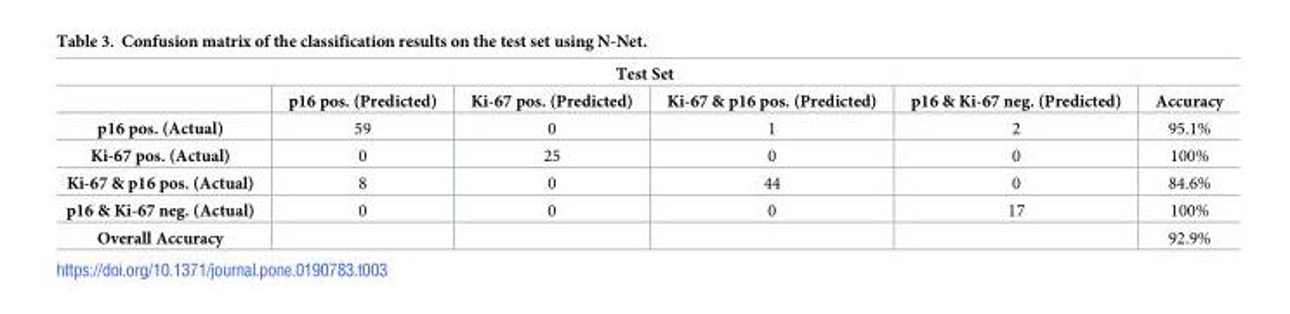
<table><thead><tr><td colspan="6">Test Set</td></tr><tr><td></td><td>p16 pos. (Predicted)</td><td>Ki-67 pos. (Predicted)</td><td>Ki-67 &amp; p16 pos. (Predicted)</td><td>p16 &amp; Ki-67 neg. (Predicted)</td><td>Accuracy</td></tr></thead><tbody><tr><td>p16 pos. (Actual)</td><td>59</td><td>0</td><td>1</td><td>2</td><td>95.1%</td></tr><tr><td>Ki-67 pos. (Actual)</td><td>0</td><td>25</td><td>0</td><td>0</td><td>100%</td></tr><tr><td>Ki-67 &amp; p16 pos. (Actual)</td><td>8</td><td>0</td><td>44</td><td>0</td><td>84.6%</td></tr><tr><td>p16 &amp; Ki-67 neg. (Actual)</td><td>0</td><td>0</td><td>0</td><td>17</td><td>100%</td></tr><tr><td>Overall Accuracy</td><td></td><td></td><td></td><td></td><td>92.9%</td></tr></tbody></table>